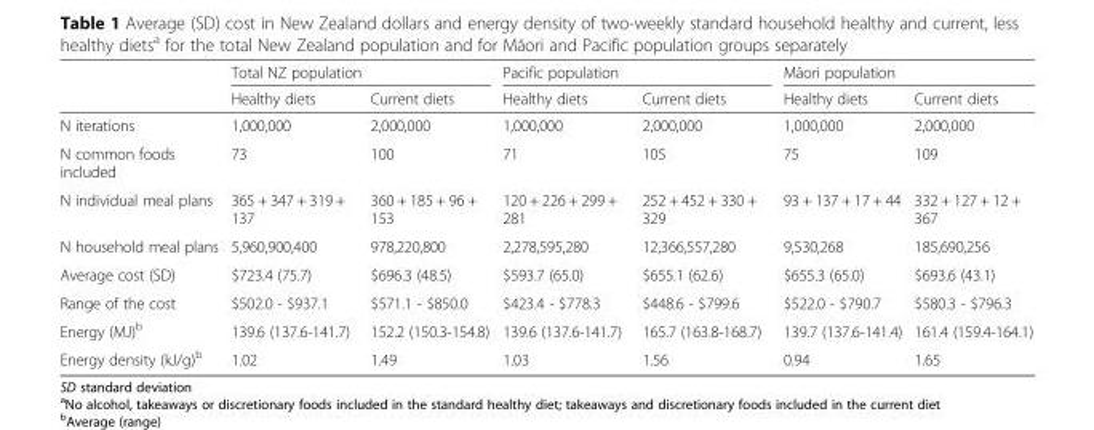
<table><thead><tr><td rowspan="2"></td><td colspan="2">Total NZ population</td><td colspan="2">Pacific population</td><td colspan="2">Māori population</td></tr><tr><td>Healthy diets</td><td>Current diets</td><td>Healthy diets</td><td>Current diets</td><td>Healthy diets</td><td>Current diets</td></tr></thead><tbody><tr><td>N iterations</td><td>1,000,000</td><td>2,000,000</td><td>1,000,000</td><td>2,000,000</td><td>1,000,000</td><td>2,000,000</td></tr><tr><td>N common foods included</td><td>73</td><td>100</td><td>71</td><td>105</td><td>75</td><td>109</td></tr><tr><td>N individual meal plans</td><td>365 + 347 + 319 + 137</td><td>360 + 185 + 96 + 153</td><td>120 + 226 + 299 + 281</td><td>252 + 452 + 330 + 329</td><td>93 + 137 + 17 + 44</td><td>332 + 127 + 12 + 367</td></tr><tr><td>N household meal plans</td><td>5,960,900,400</td><td>978,220,800</td><td>2,278,595,280</td><td>12,366,557,280</td><td>9,530,268</td><td>185,690,256</td></tr><tr><td>Average cost (SD)</td><td>$723.4 (75.7)</td><td>$696.3 (48.5)</td><td>$593.7 (65.0)</td><td>$655.1 (62.6)</td><td>$655.3 (65.0)</td><td>$693.6 (43.1)</td></tr><tr><td>Range of the cost</td><td>$502.0 - $937.1</td><td>$571.1 - $850.0</td><td>$423.4 - $778.3</td><td>$448.6 - $799.6</td><td>$522.0 - $790.7</td><td>$580.3 - $796.3</td></tr><tr><td>Energy (MJ)<sup>b</sup></td><td>139.6 (137.6-141.7)</td><td>152.2 (150.3-154.8)</td><td>139.6 (137.6-141.7)</td><td>165.7 (163.8-168.7)</td><td>139.7 (137.6-141.4)</td><td>161.4 (159.4-164.1)</td></tr><tr><td>Energy density (kJ/g)<sup>b</sup></td><td>1.02</td><td>1.49</td><td>1.03</td><td>1.56</td><td>0.94</td><td>1.65</td></tr></tbody></table>